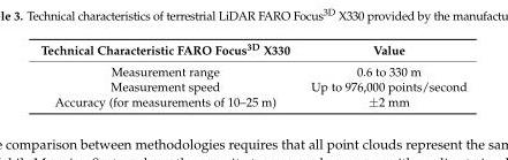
<table><thead><tr><td>Technical Characteristic FARO Focus<sup>3D</sup> X330</td><td>Value</td></tr></thead><tbody><tr><td>Measurement range</td><td>0.6 to 330 m</td></tr><tr><td>Measurement speed</td><td>Up to 976,000 points/second</td></tr><tr><td>Accuracy (for measurements of 10–25 m)</td><td>±2 mm</td></tr></tbody></table>